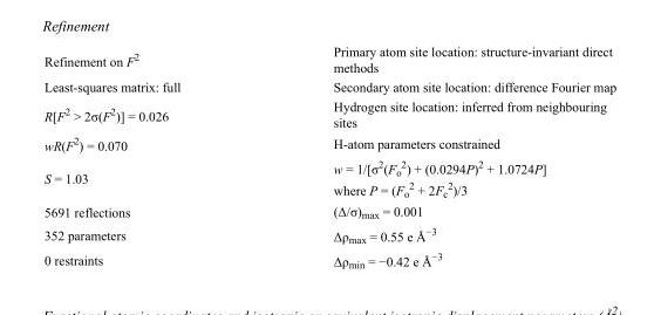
<table><tbody><tr><td>Refinement on F<sup>2</sup></td><td>Primary atom site location: structure-invariant direct methods</td></tr><tr><td>Least-squares matrix: full</td><td>Secondary atom site location: difference Fourier map</td></tr><tr><td>R[F<sup>2</sup> &gt; 2σ(F<sup>2</sup>)] = 0.026</td><td>Hydrogen site location: inferred from neighbouring sites</td></tr><tr><td>wR(F<sup>2</sup>) = 0.070</td><td>H-atom parameters constrained</td></tr><tr><td>S = 1.03</td><td>w = 1/[σ<sup>2</sup>(F<sub>o</sub> <sup>2</sup>) + (0.0294P)<sup>2</sup> + 1.0724P] where P = (F<sub>o</sub> <sup>2</sup> + 2F<sub>c</sub> <sup>2</sup>)/3</td></tr><tr><td>5691 reflections</td><td>(Δ/σ)<sub>max</sub> = 0.001</td></tr><tr><td>352 parameters</td><td>Δρ<sub>max</sub> = 0.55 e Å<sup>−3</sup></td></tr><tr><td>0 restraints</td><td>Δρ<sub>min</sub> = −0.42 e Å<sup>−3</sup></td></tr></tbody></table>